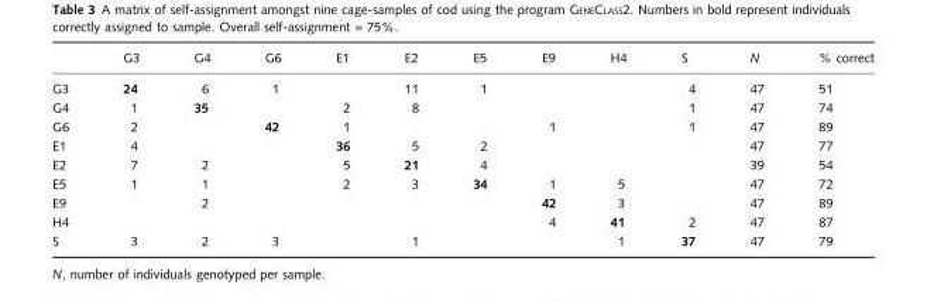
<table><thead><tr><td></td><td>G3</td><td>G4</td><td>G6</td><td>E1</td><td>E2</td><td>E5</td><td>E9</td><td>H4</td><td>S</td><td>N</td><td>% correct</td></tr></thead><tbody><tr><td>G3</td><td>24</td><td>6</td><td>1</td><td></td><td>11</td><td>1</td><td></td><td></td><td>4</td><td>47</td><td>51</td></tr><tr><td>G4</td><td>1</td><td>35</td><td></td><td>2</td><td>8</td><td></td><td></td><td></td><td>1</td><td>47</td><td>74</td></tr><tr><td>G6</td><td>2</td><td></td><td>42</td><td>1</td><td></td><td></td><td>1</td><td></td><td>1</td><td>47</td><td>89</td></tr><tr><td>E1</td><td>4</td><td></td><td></td><td>36</td><td>5</td><td>2</td><td></td><td></td><td></td><td>47</td><td>77</td></tr><tr><td>E2</td><td>7</td><td>2</td><td></td><td>5</td><td>21</td><td>4</td><td></td><td></td><td></td><td>39</td><td>54</td></tr><tr><td>E5</td><td>1</td><td>1</td><td></td><td>2</td><td>3</td><td>34</td><td>1</td><td>5</td><td></td><td>47</td><td>72</td></tr><tr><td>E9</td><td></td><td>2</td><td></td><td></td><td></td><td></td><td>42</td><td>3</td><td></td><td>47</td><td>89</td></tr><tr><td>H4</td><td></td><td></td><td></td><td></td><td></td><td></td><td>4</td><td>41</td><td>2</td><td>47</td><td>87</td></tr><tr><td>S</td><td>3</td><td>2</td><td>3</td><td></td><td>1</td><td></td><td></td><td>1</td><td>37</td><td>47</td><td>79</td></tr></tbody></table>